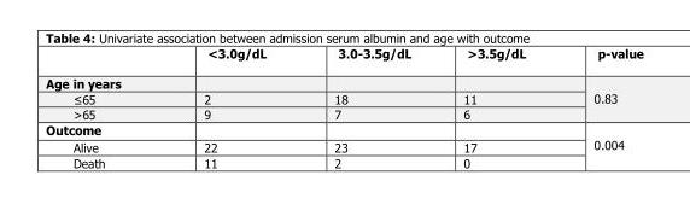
<table><thead><tr><td></td><td>&lt;3.0g/dL</td><td>3.0-3.5g/dL</td><td>&gt;3.5g/dL</td><td>p-value</td></tr></thead><tbody><tr><td colspan="4">Age in years</td><td rowspan="3">0.83</td></tr><tr><td>≤65</td><td>2</td><td>18</td><td>11</td></tr><tr><td>&gt;65</td><td>9</td><td>7</td><td>6</td></tr><tr><td colspan="4">Outcome</td><td rowspan="3">0.004</td></tr><tr><td>Alive</td><td>22</td><td>23</td><td>17</td></tr><tr><td>Death</td><td>11</td><td>2</td><td>0</td></tr></tbody></table>